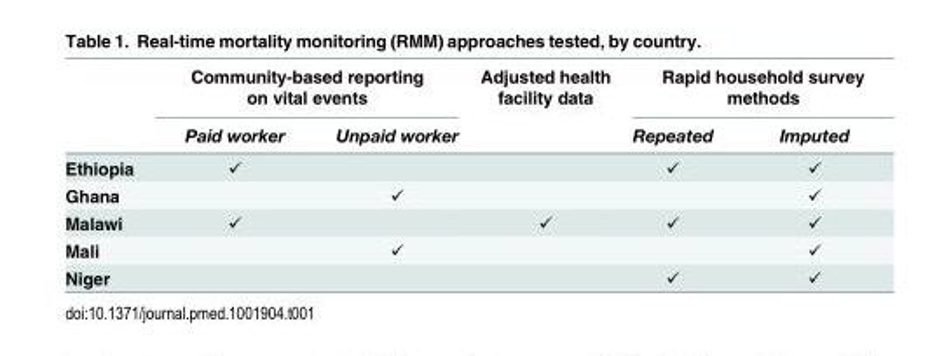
<table><thead><tr><td rowspan="2"></td><td colspan="2">Community-based reporting on vital events</td><td rowspan="2">Adjusted health facility data</td><td colspan="2">Rapid household survey methods</td></tr><tr><td>Paid worker</td><td>Unpaid worker</td><td>Repeated</td><td>Imputed</td></tr></thead><tbody><tr><td>Ethiopia</td><td>✓</td><td></td><td></td><td>✓</td><td>✓</td></tr><tr><td>Ghana</td><td></td><td>✓</td><td></td><td></td><td>✓</td></tr><tr><td>Malawi</td><td>✓</td><td></td><td>✓</td><td>✓</td><td>✓</td></tr><tr><td>Mali</td><td></td><td>✓</td><td></td><td></td><td>✓</td></tr><tr><td>Niger</td><td></td><td></td><td></td><td>✓</td><td>✓</td></tr></tbody></table>